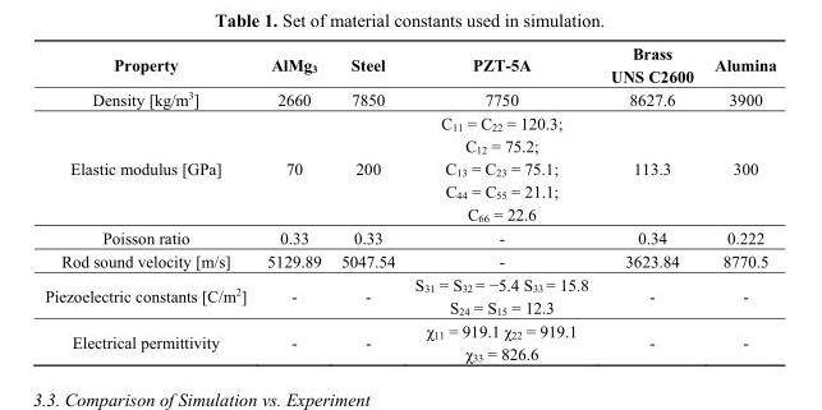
<table><thead><tr><td>Property</td><td>AlMg<sub>3</sub></td><td>Steel</td><td>PZT-5A</td><td>Brass UNS C2600</td><td>Alumina</td></tr></thead><tbody><tr><td>Density [kg/m<sup>3</sup>]</td><td>2660</td><td>7850</td><td>7750</td><td>8627.6</td><td>3900</td></tr><tr><td>Elastic modulus [GPa]</td><td>70</td><td>200</td><td>C<sub>11</sub> = C<sub>22</sub> = 120.3; C<sub>12</sub> = 75.2; C<sub>13</sub> = C<sub>23</sub> = 75.1; C<sub>44</sub> = C<sub>55</sub> = 21.1; C<sub>66</sub> = 22.6</td><td>113.3</td><td>300</td></tr><tr><td>Poisson ratio</td><td>0.33</td><td>0.33</td><td>-</td><td>0.34</td><td>0.222</td></tr><tr><td>Rod sound velocity [m/s]</td><td>5129.89</td><td>5047.54</td><td>-</td><td>3623.84</td><td>8770.5</td></tr><tr><td>Piezoelectric constants [C/m<sup>2</sup>]</td><td>-</td><td>-</td><td>S<sub>31</sub> = S<sub>32</sub> = −5.4 S<sub>33</sub> = 15.8 S<sub>24</sub> = S<sub>15</sub> = 12.3</td><td>-</td><td>-</td></tr><tr><td>Electrical permittivity</td><td>-</td><td>-</td><td>χ<sub>11</sub> = 919.1 χ<sub>22</sub> = 919.1 χ<sub>33</sub> = 826.6</td><td>-</td><td>-</td></tr></tbody></table>